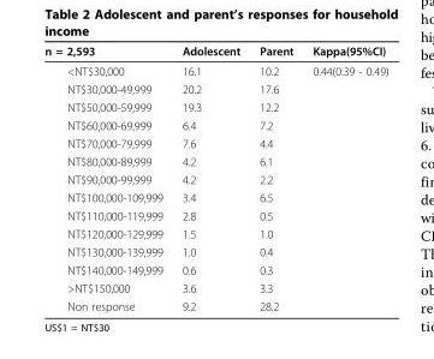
<table><thead><tr><td>n = 2,593</td><td>Adolescent</td><td>Parent</td><td>Kappa(95%CI)</td></tr></thead><tbody><tr><td>&lt;NT$30,000</td><td>16.1</td><td>10.2</td><td>0.44(0.39 - 0.49)</td></tr><tr><td>NT$30,000-49,999</td><td>20.2</td><td>17.6</td><td></td></tr><tr><td>NT$50,000-59,999</td><td>19.3</td><td>12.2</td><td></td></tr><tr><td>NT$60,000-69,999</td><td>6.4</td><td>7.2</td><td></td></tr><tr><td>NT$70,000-79,999</td><td>7.6</td><td>4.4</td><td></td></tr><tr><td>NT$80,000-89,999</td><td>4.2</td><td>6.1</td><td></td></tr><tr><td>NT$90,000-99,999</td><td>4.2</td><td>2.2</td><td></td></tr><tr><td>NT$100,000-109,999</td><td>3.4</td><td>6.5</td><td></td></tr><tr><td>NT$110,000-119,999</td><td>2.8</td><td>0.5</td><td></td></tr><tr><td>NT$120,000-129,999</td><td>1.5</td><td>1.0</td><td></td></tr><tr><td>NT$130,000-139,999</td><td>1.0</td><td>0.4</td><td></td></tr><tr><td>NT$140,000-149,999</td><td>0.6</td><td>0.3</td><td></td></tr><tr><td>&gt;NT$150,000</td><td>3.6</td><td>3.3</td><td></td></tr><tr><td>Non response</td><td>9.2</td><td>28.2</td><td></td></tr></tbody></table>